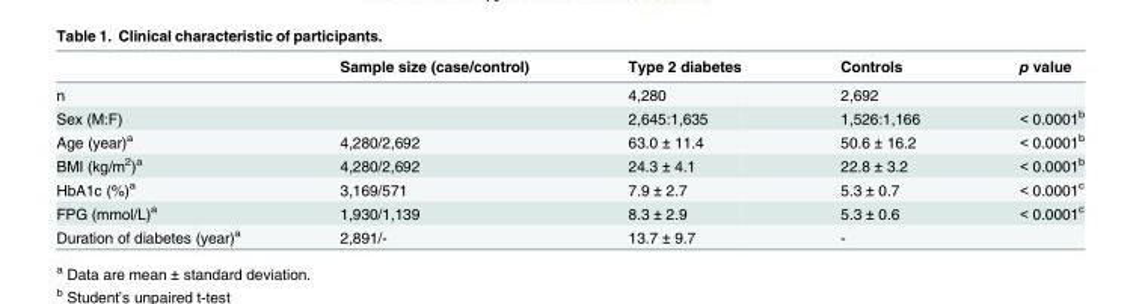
<table><thead><tr><td></td><td>Sample size (case/control)</td><td>Type 2 diabetes</td><td>Controls</td><td>p value</td></tr></thead><tbody><tr><td>n</td><td></td><td>4,280</td><td>2,692</td><td></td></tr><tr><td>Sex (M:F)</td><td></td><td>2,645:1,635</td><td>1,526:1,166</td><td>&lt; 0.0001<sup>b</sup></td></tr><tr><td>Age (year)<sup>a</sup></td><td>4,280/2,692</td><td>63.0 ± 11.4</td><td>50.6 ± 16.2</td><td>&lt; 0.0001<sup>b</sup></td></tr><tr><td>BMI (kg/m<sup>2</sup>)<sup>a</sup></td><td>4,280/2,692</td><td>24.3 ± 4.1</td><td>22.8 ± 3.2</td><td>&lt; 0.0001<sup>b</sup></td></tr><tr><td>HbA1c (%)<sup>a</sup></td><td>3,169/571</td><td>7.9 ± 2.7</td><td>5.3 ± 0.7</td><td>&lt; 0.0001<sup>c</sup></td></tr><tr><td>FPG (mmol/L)<sup>a</sup></td><td>1,930/1,139</td><td>8.3 ± 2.9</td><td>5.3 ± 0.6</td><td>&lt; 0.0001<sup>c</sup></td></tr><tr><td>Duration of diabetes (year)<sup>a</sup></td><td>2,891/-</td><td>13.7 ± 9.7</td><td>-</td><td></td></tr></tbody></table>